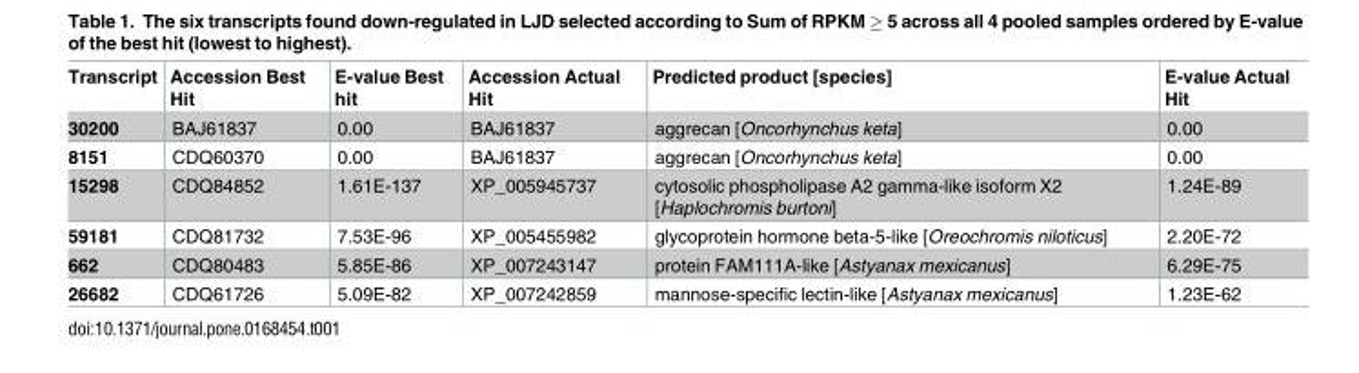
<table><thead><tr><td>Transcript</td><td>Accession Best Hit</td><td>E-value Best hit</td><td>Accession Actual Hit</td><td>Predicted product [species]</td><td>E-value Actual Hit</td></tr></thead><tbody><tr><td>30200</td><td>BAJ61837</td><td>0.00</td><td>BAJ61837</td><td>aggrecan [Oncorhynchus keta]</td><td>0.00</td></tr><tr><td>8151</td><td>CDQ60370</td><td>0.00</td><td>BAJ61837</td><td>aggrecan [Oncorhynchus keta]</td><td>0.00</td></tr><tr><td>15298</td><td>CDQ84852</td><td>1.61E-137</td><td>XP_005945737</td><td>cytosolic phospholipase A2 gamma-like isoform X2 [Haplochromis burtoni]</td><td>1.24E-89</td></tr><tr><td>59181</td><td>CDQ81732</td><td>7.53E-96</td><td>XP_005455982</td><td>glycoprotein hormone beta-5-like [Oreochromis niloticus]</td><td>2.20E-72</td></tr><tr><td>662</td><td>CDQ80483</td><td>5.85E-86</td><td>XP_007243147</td><td>protein FAM111A-like [Astyanax mexicanus]</td><td>6.29E-75</td></tr><tr><td>26682</td><td>CDQ61726</td><td>5.09E-82</td><td>XP_007242859</td><td>mannose-specific lectin-like [Astyanax mexicanus]</td><td>1.23E-62</td></tr></tbody></table>